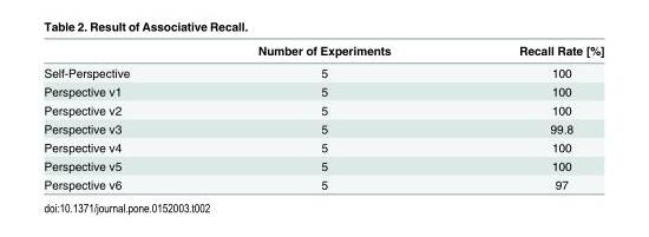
<table><thead><tr><td></td><td>Number of Experiments</td><td>Recall Rate [%]</td></tr></thead><tbody><tr><td>Self-Perspective</td><td>5</td><td>100</td></tr><tr><td>Perspective v1</td><td>5</td><td>100</td></tr><tr><td>Perspective v2</td><td>5</td><td>100</td></tr><tr><td>Perspective v3</td><td>5</td><td>99.8</td></tr><tr><td>Perspective v4</td><td>5</td><td>100</td></tr><tr><td>Perspective v5</td><td>5</td><td>100</td></tr><tr><td>Perspective v6</td><td>5</td><td>97</td></tr></tbody></table>